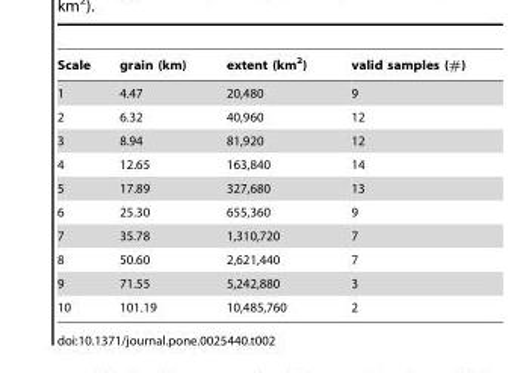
<table><thead><tr><td>Scale</td><td>grain (km)</td><td>extent (km<sup>2</sup>)</td><td>valid samples (#)</td></tr></thead><tbody><tr><td>1</td><td>4.47</td><td>20,480</td><td>9</td></tr><tr><td>2</td><td>6.32</td><td>40,960</td><td>12</td></tr><tr><td>3</td><td>8.94</td><td>81,920</td><td>12</td></tr><tr><td>4</td><td>12.65</td><td>163,840</td><td>14</td></tr><tr><td>5</td><td>17.89</td><td>327,680</td><td>13</td></tr><tr><td>6</td><td>25.30</td><td>655,360</td><td>9</td></tr><tr><td>7</td><td>35.78</td><td>1,310,720</td><td>7</td></tr><tr><td>8</td><td>50.60</td><td>2,621,440</td><td>7</td></tr><tr><td>9</td><td>71.55</td><td>5,242,880</td><td>3</td></tr><tr><td>10</td><td>101.19</td><td>10,485,760</td><td>2</td></tr></tbody></table>